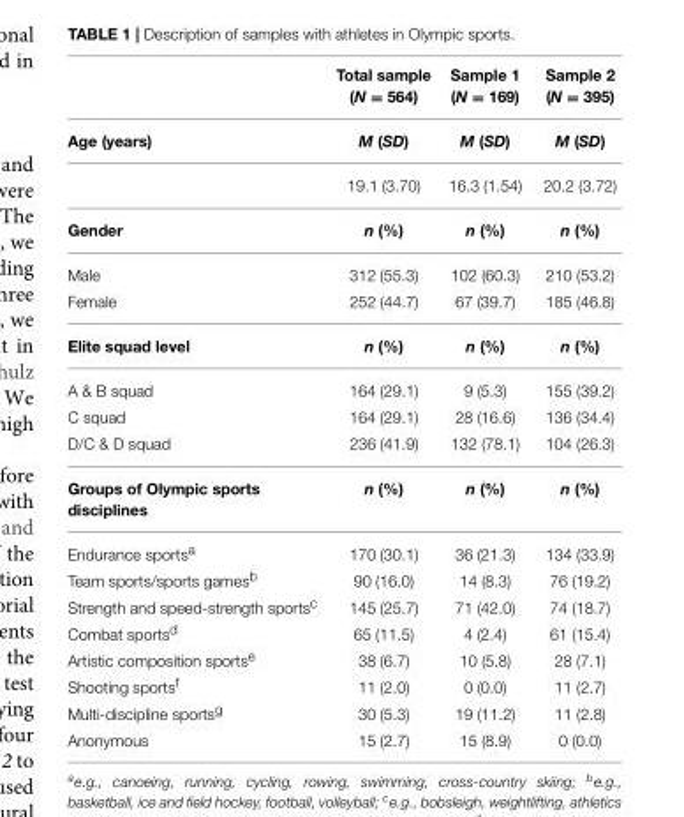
<table><thead><tr><td></td><td>Total sample (N = 564)</td><td>Sample 1 (N = 169)</td><td>Sample 2 (N = 395)</td></tr></thead><tbody><tr><td rowspan="2">Age (years)</td><td>M (SD)</td><td>M (SD)</td><td>M (SD)</td></tr><tr><td>19.1 (3.70)</td><td>16.3 (1.54)</td><td>20.2 (3.72)</td></tr><tr><td>Gender</td><td>n (%)</td><td>n (%)</td><td>n (%)</td></tr><tr><td>Male</td><td>312 (55.3)</td><td>102 (60.3)</td><td>210 (53.2)</td></tr><tr><td>Female</td><td>252 (44.7)</td><td>67 (39.7)</td><td>185 (46.8)</td></tr><tr><td>Elite squad level</td><td>n (%)</td><td>n (%)</td><td>n (%)</td></tr><tr><td>A &amp; B squad</td><td>164 (29.1)</td><td>9 (5.3)</td><td>155 (39.2)</td></tr><tr><td>C squad</td><td>164 (29.1)</td><td>28 (16.6)</td><td>136 (34.4)</td></tr><tr><td>D/C &amp; D squad</td><td>236 (41.9)</td><td>132 (78.1)</td><td>104 (26.3)</td></tr><tr><td>Groups of Olympic sports disciplines</td><td>n (%)</td><td>n (%)</td><td>n (%)</td></tr><tr><td>Endurance sports<sup>a</sup></td><td>170 (30.1)</td><td>36 (21.3)</td><td>134 (33.9)</td></tr><tr><td>Team sports/sports games<sup>b</sup></td><td>90 (16.0)</td><td>14 (8.3)</td><td>76 (19.2)</td></tr><tr><td>Strength and speed-strength sports<sup>c</sup></td><td>145 (25.7)</td><td>71 (42.0)</td><td>74 (18.7)</td></tr><tr><td>Combat sports<sup>d</sup></td><td>65 (11.5)</td><td>4 (2.4)</td><td>61 (15.4)</td></tr><tr><td>Artistic composition sports<sup>e</sup></td><td>38 (6.7)</td><td>10 (5.8)</td><td>28 (7.1)</td></tr><tr><td>Shooting sports<sup>f</sup></td><td>11 (2.0)</td><td>0 (0.0)</td><td>11 (2.7)</td></tr><tr><td>Multi-discipline sports<sup>g</sup></td><td>30 (5.3)</td><td>19 (11.2)</td><td>11 (2.8)</td></tr><tr><td>Anonymous</td><td>15 (2.7)</td><td>15 (8.9)</td><td>0 (0.0)</td></tr></tbody></table>